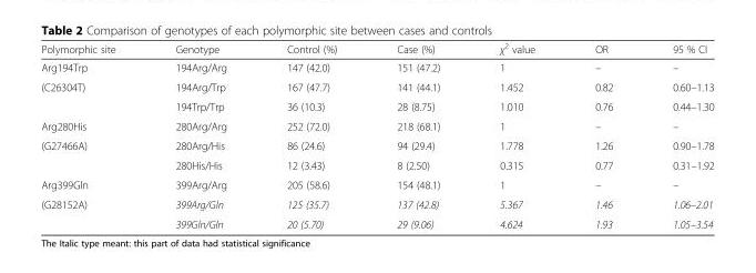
<table><thead><tr><td>Polymorphic site</td><td>Genotype</td><td>Control (%)</td><td>Case (%)</td><td>χ<sup>2</sup> value</td><td>OR</td><td>95 % CI</td></tr></thead><tbody><tr><td>Arg194Trp</td><td>194Arg/Arg</td><td>147 (42.0)</td><td>151 (47.2)</td><td>1</td><td>–</td><td>–</td></tr><tr><td rowspan="2">(C26304T)</td><td>194Arg/Trp</td><td>167 (47.7)</td><td>141 (44.1)</td><td>1.452</td><td>0.82</td><td>0.60–1.13</td></tr><tr><td>194Trp/Trp</td><td>36 (10.3)</td><td>28 (8.75)</td><td>1.010</td><td>0.76</td><td>0.44–1.30</td></tr><tr><td>Arg280His</td><td>280Arg/Arg</td><td>252 (72.0)</td><td>218 (68.1)</td><td>1</td><td>–</td><td>–</td></tr><tr><td rowspan="2">(G27466A)</td><td>280Arg/His</td><td>86 (24.6)</td><td>94 (29.4)</td><td>1.778</td><td>1.26</td><td>0.90–1.78</td></tr><tr><td>280His/His</td><td>12 (3.43)</td><td>8 (2.50)</td><td>0.315</td><td>0.77</td><td>0.31–1.92</td></tr><tr><td>Arg399Gln</td><td>399Arg/Arg</td><td>205 (58.6)</td><td>154 (48.1)</td><td>1</td><td>–</td><td>–</td></tr><tr><td rowspan="2">(G28152A)</td><td>399Arg/Gln</td><td>125 (35.7)</td><td>137 (42.8)</td><td>5.367</td><td>1.46</td><td>1.06–2.01</td></tr><tr><td>399Gln/Gln</td><td>20 (5.70)</td><td>29 (9.06)</td><td>4.624</td><td>1.93</td><td>1.05–3.54</td></tr></tbody></table>